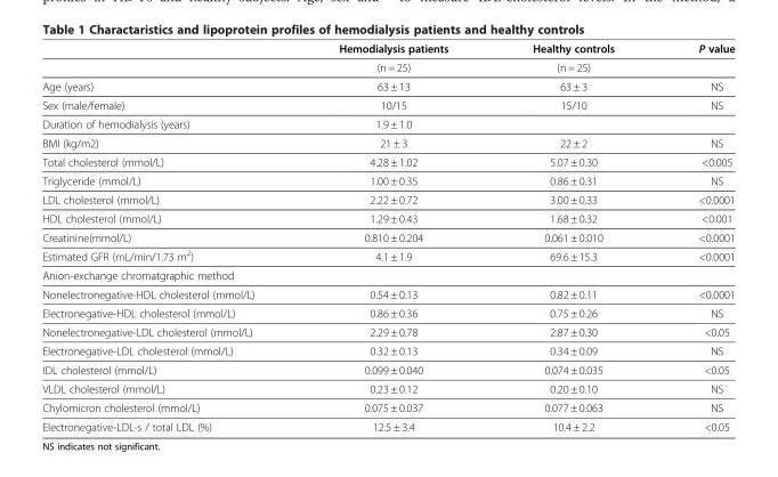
<table><thead><tr><td></td><td>Hemodialysis patients</td><td>Healthy controls</td><td>P value</td></tr></thead><tbody><tr><td></td><td>(n = 25)</td><td>(n = 25)</td><td></td></tr><tr><td>Age (years)</td><td>63 ± 13</td><td>63 ± 3</td><td>NS</td></tr><tr><td>Sex (male/female)</td><td>10/15</td><td>15/10</td><td>NS</td></tr><tr><td>Duration of hemodialysis (years)</td><td>1.9 ± 1.0</td><td></td><td></td></tr><tr><td>BMI (kg/m2)</td><td>21 ± 3</td><td>22 ± 2</td><td>NS</td></tr><tr><td>Total cholesterol (mmol/L)</td><td>4.28 ± 1.02</td><td>5.07 ± 0.30</td><td>&lt;0.005</td></tr><tr><td>Triglyceride (mmol/L)</td><td>1.00 ± 0.35</td><td>0.86 ± 0.31</td><td>NS</td></tr><tr><td>LDL cholesterol (mmol/L)</td><td>2.22 ± 0.72</td><td>3.00 ± 0.33</td><td>&lt;0.0001</td></tr><tr><td>HDL cholesterol (mmol/L)</td><td>1.29 ± 0.43</td><td>1.68 ± 0.32</td><td>&lt;0.001</td></tr><tr><td>Creatinine(mmol/L)</td><td>0.810 ± 0.204</td><td>0.061 ± 0.010</td><td>&lt;0.0001</td></tr><tr><td>Estimated GFR (mL/min/1.73 m<sup>2</sup>)</td><td>4.1 ± 1.9</td><td>69.6 ± 15.3</td><td>&lt;0.0001</td></tr><tr><td colspan="4">Anion-exchange chromatgraphic method</td></tr><tr><td>Nonelectronegative-HDL cholesterol (mmol/L)</td><td>0.54 ± 0.13</td><td>0.82 ± 0.11</td><td>&lt;0.0001</td></tr><tr><td>Electronegative-HDL cholesterol (mmol/L)</td><td>0.86 ± 0.36</td><td>0.75 ± 0.26</td><td>NS</td></tr><tr><td>Nonelectronegative-LDL cholesterol (mmol/L)</td><td>2.29 ± 0.78</td><td>2.87 ± 0.30</td><td>&lt;0.05</td></tr><tr><td>Electronegative-LDL cholesterol (mmol/L)</td><td>0.32 ± 0.13</td><td>0.34 ± 0.09</td><td>NS</td></tr><tr><td>IDL cholesterol (mmol/L)</td><td>0.099 ± 0.040</td><td>0.074 ± 0.035</td><td>&lt;0.05</td></tr><tr><td>VLDL cholesterol (mmol/L)</td><td>0.23 ± 0.12</td><td>0.20 ± 0.10</td><td>NS</td></tr><tr><td>Chylomicron cholesterol (mmol/L)</td><td>0.075 ± 0.037</td><td>0.077 ± 0.063</td><td>NS</td></tr><tr><td>Electronegative-LDL-s / total LDL (%)</td><td>12.5 ± 3.4</td><td>10.4 ± 2.2</td><td>&lt;0.05</td></tr></tbody></table>